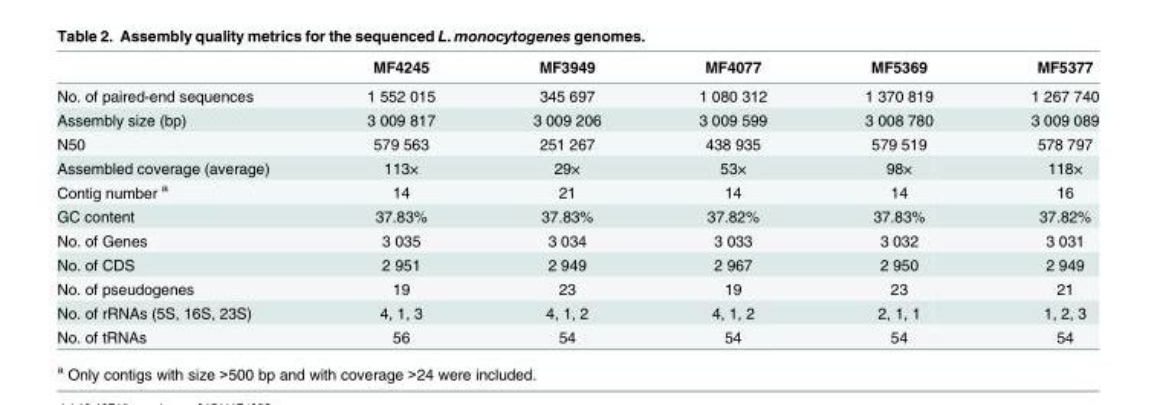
<table><thead><tr><td></td><td>MF4245</td><td>MF3949</td><td>MF4077</td><td>MF5369</td><td>MF5377</td></tr></thead><tbody><tr><td>No. of paired-end sequences</td><td>1 552 015</td><td>345 697</td><td>1 080 312</td><td>1 370 819</td><td>1 267 740</td></tr><tr><td>Assembly size (bp)</td><td>3 009 817</td><td>3 009 206</td><td>3 009 599</td><td>3 008 780</td><td>3 009 089</td></tr><tr><td>N50</td><td>579 563</td><td>251 267</td><td>438 935</td><td>579 519</td><td>578 797</td></tr><tr><td>Assembled coverage (average)</td><td>113×</td><td>29×</td><td>53×</td><td>98×</td><td>118×</td></tr><tr><td>Contig number <sup>a</sup></td><td>14</td><td>21</td><td>14</td><td>14</td><td>16</td></tr><tr><td>GC content</td><td>37.83%</td><td>37.83%</td><td>37.82%</td><td>37.83%</td><td>37.82%</td></tr><tr><td>No. of Genes</td><td>3 035</td><td>3 034</td><td>3 033</td><td>3 032</td><td>3 031</td></tr><tr><td>No. of CDS</td><td>2 951</td><td>2 949</td><td>2 967</td><td>2 950</td><td>2 949</td></tr><tr><td>No. of pseudogenes</td><td>19</td><td>23</td><td>19</td><td>23</td><td>21</td></tr><tr><td>No. of rRNAs (5S, 16S, 23S)</td><td>4, 1, 3</td><td>4, 1, 2</td><td>4, 1, 2</td><td>2, 1, 1</td><td>1, 2, 3</td></tr><tr><td>No. of tRNAs</td><td>56</td><td>54</td><td>54</td><td>54</td><td>54</td></tr></tbody></table>